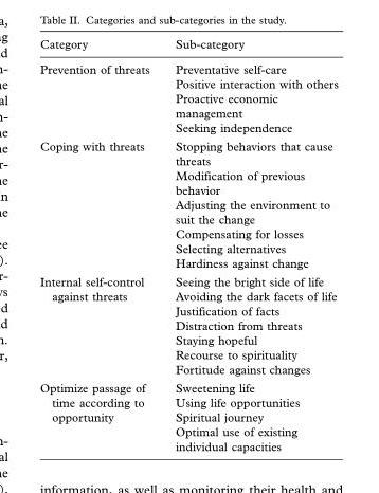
<table><thead><tr><td>Category</td><td>Sub-category</td></tr></thead><tbody><tr><td rowspan="4">Prevention of threats</td><td>Preventative self-care</td></tr><tr><td>Positive interaction with others</td></tr><tr><td>Proactive economic management</td></tr><tr><td>Seeking independence</td></tr><tr><td rowspan="6">Coping with threats</td><td>Stopping behaviors that cause threats</td></tr><tr><td>Modification of previous behavior</td></tr><tr><td>Adjusting the environment to suit the change</td></tr><tr><td>Compensating for losses</td></tr><tr><td>Selecting alternatives</td></tr><tr><td>Hardiness against change</td></tr><tr><td>Internal self-control</td><td>Seeing the bright side of life</td></tr><tr><td rowspan="6">against threats</td><td>Avoiding the dark facets of life</td></tr><tr><td>Justification of facts</td></tr><tr><td>Distraction from threats</td></tr><tr><td>Staying hopeful</td></tr><tr><td>Recourse to spirituality</td></tr><tr><td>Fortitude against changes</td></tr><tr><td>Optimize passage of</td><td>Sweetening life</td></tr><tr><td>time according to</td><td>Using life opportunities</td></tr><tr><td rowspan="2">opportunity</td><td>Spiritual journey</td></tr><tr><td>Optimal use of existing individual capacities</td></tr></tbody></table>